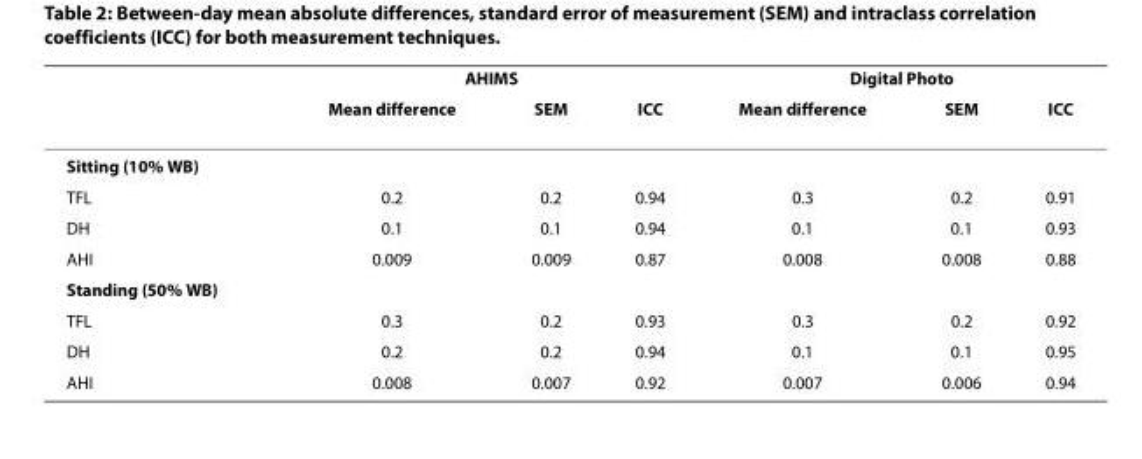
<table><thead><tr><td rowspan="2"></td><td colspan="3">AHIMS</td><td colspan="3">Digital Photo</td></tr><tr><td>Mean difference</td><td>SEM</td><td>ICC</td><td>Mean difference</td><td>SEM</td><td>ICC</td></tr></thead><tbody><tr><td colspan="7">Sitting (10% WB)</td></tr><tr><td>TFL</td><td>0.2</td><td>0.2</td><td>0.94</td><td>0.3</td><td>0.2</td><td>0.91</td></tr><tr><td>DH</td><td>0.1</td><td>0.1</td><td>0.94</td><td>0.1</td><td>0.1</td><td>0.93</td></tr><tr><td>AHI</td><td>0.009</td><td>0.009</td><td>0.87</td><td>0.008</td><td>0.008</td><td>0.88</td></tr><tr><td colspan="7">Standing (50% WB)</td></tr><tr><td>TFL</td><td>0.3</td><td>0.2</td><td>0.93</td><td>0.3</td><td>0.2</td><td>0.92</td></tr><tr><td>DH</td><td>0.2</td><td>0.2</td><td>0.94</td><td>0.1</td><td>0.1</td><td>0.95</td></tr><tr><td>AHI</td><td>0.008</td><td>0.007</td><td>0.92</td><td>0.007</td><td>0.006</td><td>0.94</td></tr></tbody></table>